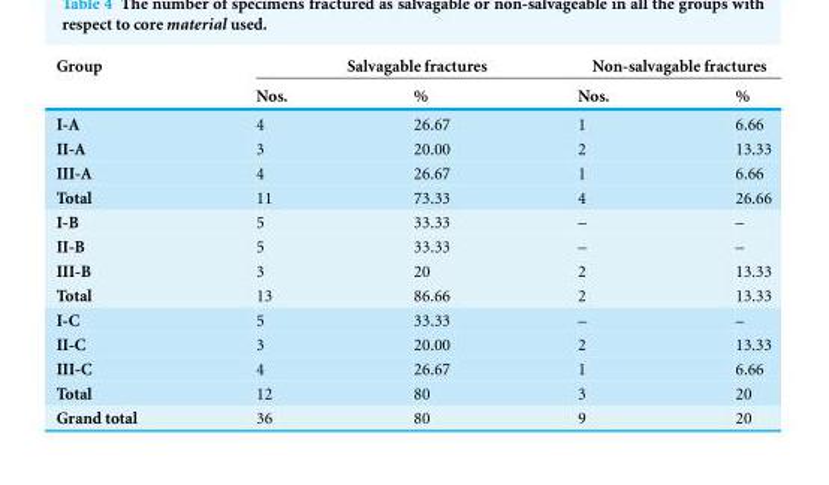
<table><thead><tr><td rowspan="2">Group</td><td colspan="2">Salvagable fractures</td><td colspan="2">Non-salvagable fractures</td></tr><tr><td>Nos.</td><td>%</td><td>Nos.</td><td>%</td></tr></thead><tbody><tr><td>I-A</td><td>4</td><td>26.67</td><td>1</td><td>6.66</td></tr><tr><td>II-A</td><td>3</td><td>20.00</td><td>2</td><td>13.33</td></tr><tr><td>III-A</td><td>4</td><td>26.67</td><td>1</td><td>6.66</td></tr><tr><td>Total</td><td>11</td><td>73.33</td><td>4</td><td>26.66</td></tr><tr><td>I-B</td><td>5</td><td>33.33</td><td>–</td><td>–</td></tr><tr><td>II-B</td><td>5</td><td>33.33</td><td>–</td><td>–</td></tr><tr><td>III-B</td><td>3</td><td>20</td><td>2</td><td>13.33</td></tr><tr><td>Total</td><td>13</td><td>86.66</td><td>2</td><td>13.33</td></tr><tr><td>I-C</td><td>5</td><td>33.33</td><td>–</td><td>–</td></tr><tr><td>II-C</td><td>3</td><td>20.00</td><td>2</td><td>13.33</td></tr><tr><td>III-C</td><td>4</td><td>26.67</td><td>1</td><td>6.66</td></tr><tr><td>Total</td><td>12</td><td>80</td><td>3</td><td>20</td></tr><tr><td>Grand total</td><td>36</td><td>80</td><td>9</td><td>20</td></tr></tbody></table>